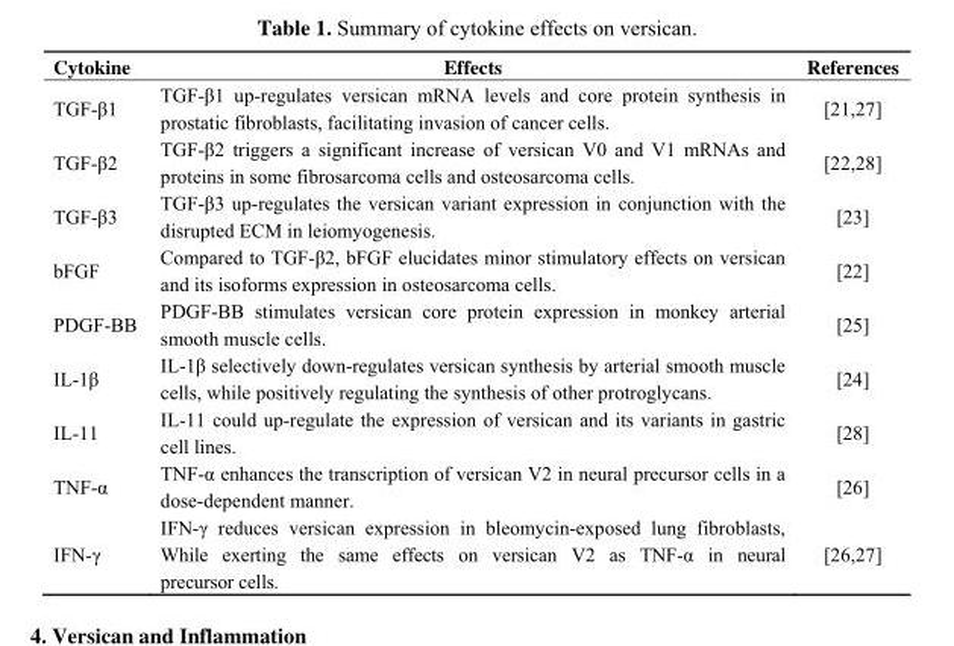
<table><thead><tr><td>Cytokine</td><td>Effects</td><td>References</td></tr></thead><tbody><tr><td>TGF-β1</td><td>TGF-β1 up-regulates versican mRNA levels and core protein synthesis in prostatic fibroblasts, facilitating invasion of cancer cells.</td><td>[21,27]</td></tr><tr><td>TGF-β2</td><td>TGF-β2 triggers a significant increase of versican V0 and V1 mRNAs and proteins in some fibrosarcoma cells and osteosarcoma cells.</td><td>[22,28]</td></tr><tr><td>TGF-β3</td><td>TGF-β3 up-regulates the versican variant expression in conjunction with the disrupted ECM in leiomyogenesis.</td><td>[23]</td></tr><tr><td>bFGF</td><td>Compared to TGF-β2, bFGF elucidates minor stimulatory effects on versican and its isoforms expression in osteosarcoma cells.</td><td>[22]</td></tr><tr><td>PDGF-BB</td><td>PDGF-BB stimulates versican core protein expression in monkey arterial smooth muscle cells.</td><td>[25]</td></tr><tr><td>IL-1β</td><td>IL-1β selectively down-regulates versican synthesis by arterial smooth muscle cells, while positively regulating the synthesis of other protroglycans.</td><td>[24]</td></tr><tr><td>IL-11</td><td>IL-11 could up-regulate the expression of versican and its variants in gastric cell lines.</td><td>[28]</td></tr><tr><td>TNF-α</td><td>TNF-α enhances the transcription of versican V2 in neural precursor cells in a dose-dependent manner.</td><td>[26]</td></tr><tr><td>IFN-γ</td><td>IFN-γ reduces versican expression in bleomycin-exposed lung fibroblasts, While exerting the same effects on versican V2 as TNF-α in neural precursor cells.</td><td>[26,27]</td></tr></tbody></table>